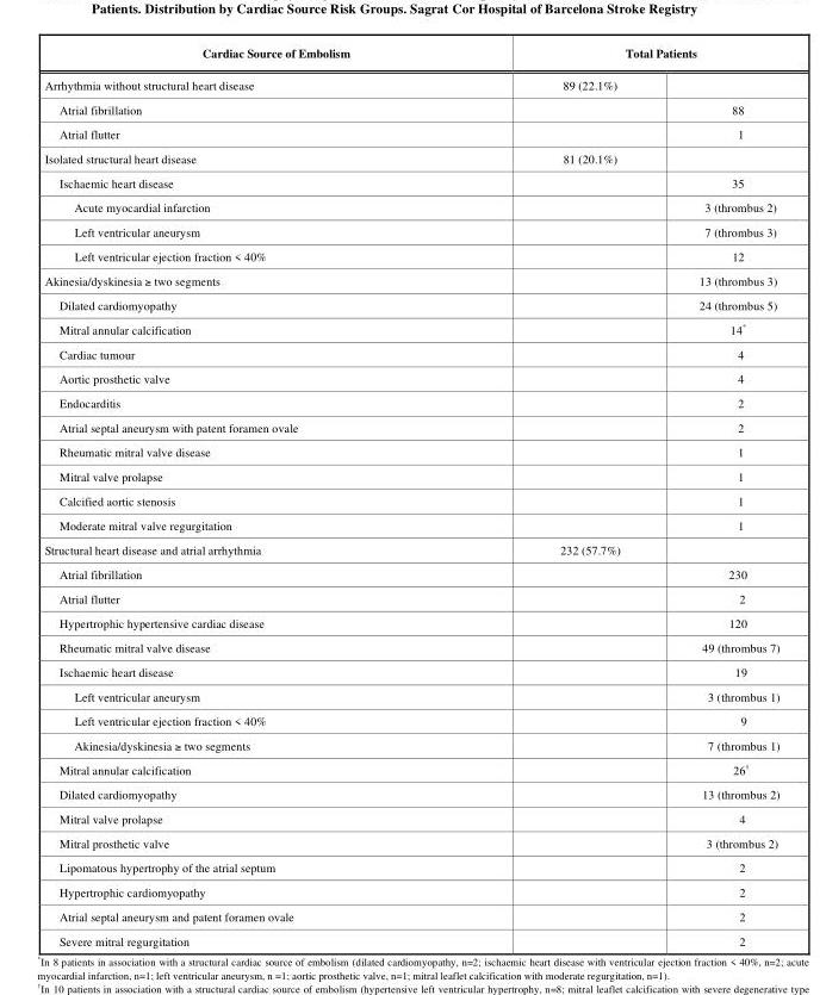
<table><thead><tr><td rowspan="2">Cardiac Source of Embolism Arrhythmia without structural heart disease</td><td colspan="2">Total Patients</td></tr><tr><td>89 (22.1%)</td><td></td></tr></thead><tbody><tr><td>Atrial fibrillation</td><td></td><td>88</td></tr><tr><td>Atrial flutter</td><td></td><td>1</td></tr><tr><td>Isolated structural heart disease</td><td>81 (20.1%)</td><td></td></tr><tr><td>Ischaemic heart disease</td><td></td><td>35</td></tr><tr><td>Acute myocardial infarction</td><td></td><td>3 (thrombus 2)</td></tr><tr><td>Left ventricular aneurysm</td><td></td><td>7 (thrombus 3)</td></tr><tr><td>Left ventricular ejection fraction &lt; 40%</td><td></td><td>12</td></tr><tr><td>Akinesia/dyskinesia ≥ two segments</td><td></td><td>13 (thrombus 3)</td></tr><tr><td>Dilated cardiomyopathy</td><td></td><td>24 (thrombus 5)</td></tr><tr><td>Mitral annular calcification</td><td></td><td>14*</td></tr><tr><td>Cardiac tumour</td><td></td><td>4</td></tr><tr><td>Aortic prosthetic valve</td><td></td><td>4</td></tr><tr><td>Endocarditis</td><td></td><td>2</td></tr><tr><td>Atrial septal aneurysm with patent foramen ovale</td><td></td><td>2</td></tr><tr><td>Rheumatic mitral valve disease</td><td></td><td>1</td></tr><tr><td>Mitral valve prolapse</td><td></td><td>1</td></tr><tr><td>Calcified aortic stenosis</td><td></td><td>1</td></tr><tr><td>Moderate mitral valve regurgitation</td><td></td><td>1</td></tr><tr><td>Structural heart disease and atrial arrhythmia</td><td>232 (57.7%)</td><td></td></tr><tr><td>Atrial fibrillation</td><td></td><td>230</td></tr><tr><td>Atrial flutter</td><td></td><td>2</td></tr><tr><td>Hypertrophic hypertensive cardiac disease</td><td></td><td>120</td></tr><tr><td>Rheumatic mitral valve disease</td><td></td><td>49 (thrombus 7)</td></tr><tr><td>Ischaemic heart disease</td><td></td><td>19</td></tr><tr><td>Left ventricular aneurysm</td><td></td><td>3 (thrombus 1)</td></tr><tr><td>Left ventricular ejection fraction &lt; 40%</td><td></td><td>9</td></tr><tr><td>Akinesia/dyskinesia ≥ two segments</td><td></td><td>7 (thrombus 1)</td></tr><tr><td>Mitral annular calcification</td><td></td><td>26<sup>†</sup></td></tr><tr><td>Dilated cardiomyopathy</td><td></td><td>13 (thrombus 2)</td></tr><tr><td>Mitral valve prolapse</td><td></td><td>4</td></tr><tr><td>Mitral prosthetic valve</td><td></td><td>3 (thrombus 2)</td></tr><tr><td>Lipomatous hypertrophy of the atrial septum</td><td></td><td>2</td></tr><tr><td>Hypertrophic cardiomyopathy</td><td></td><td>2</td></tr><tr><td>Atrial septal aneurysm and patent foramen ovale</td><td></td><td>2</td></tr><tr><td>Severe mitral regurgitation</td><td></td><td>2</td></tr></tbody></table>